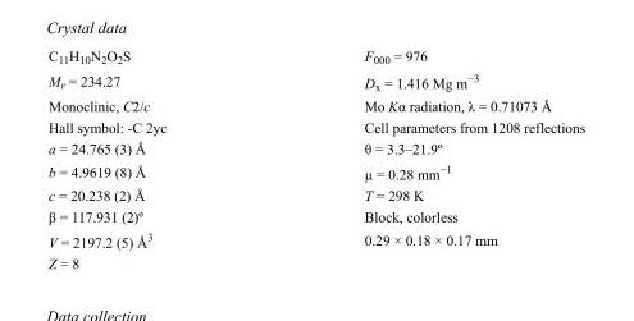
<table><tbody><tr><td>C<sub>11</sub>H<sub>10</sub>N<sub>2</sub>O<sub>2</sub>S</td><td>F000 = 976</td></tr><tr><td>M<sub>r</sub> = 234.27</td><td>D<sub>x</sub> = 1.416 Mg m<sup>−3</sup></td></tr><tr><td>Monoclinic, C2/c</td><td>Mo Kα radiation, λ = 0.71073 Å</td></tr><tr><td>Hall symbol: -C 2yc</td><td>Cell parameters from 1208 reflections</td></tr><tr><td>a = 24.765 (3) Å</td><td>θ = 3.3–21.9º</td></tr><tr><td>b = 4.9619 (8) Å</td><td>µ = 0.28 mm<sup>−1</sup></td></tr><tr><td>c = 20.238 (2) Å</td><td>T = 298 K</td></tr><tr><td>β = 117.931 (2)º</td><td>Block, colorless</td></tr><tr><td>V = 2197.2 (5) Å<sup>3</sup></td><td>0.29 × 0.18 × 0.17 mm</td></tr><tr><td>Z = 8</td><td></td></tr></tbody></table>